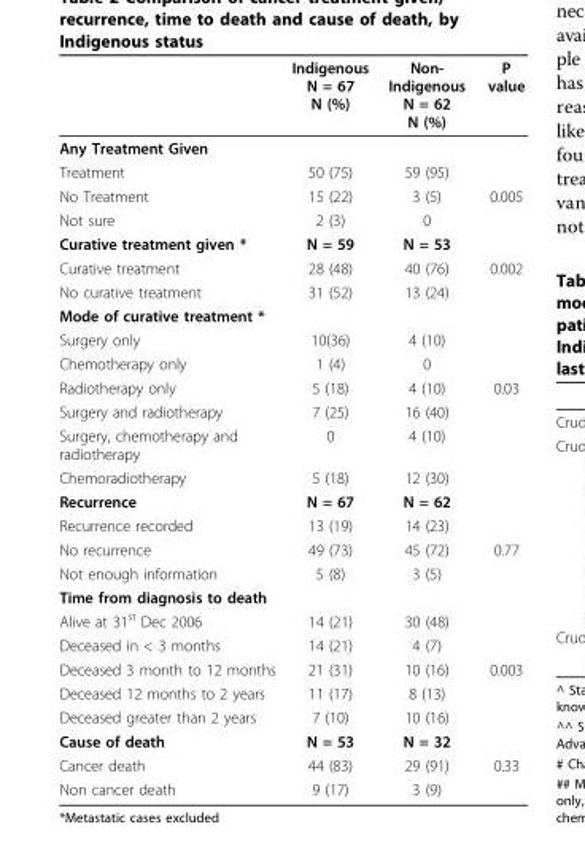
<table><thead><tr><td></td><td>Indigenous N = 67 N (%)</td><td>Non- Indigenous N = 62 N (%)</td><td>P value</td></tr></thead><tbody><tr><td colspan="4">Any Treatment Given</td></tr><tr><td>Treatment</td><td>50 (75)</td><td>59 (95)</td><td></td></tr><tr><td>No Treatment</td><td>15 (22)</td><td>3 (5)</td><td>0.005</td></tr><tr><td>Not sure</td><td>2 (3)</td><td>0</td><td></td></tr><tr><td>Curative treatment given *</td><td>N = 59</td><td>N = 53</td><td></td></tr><tr><td>Curative treatment</td><td>28 (48)</td><td>40 (76)</td><td>0.002</td></tr><tr><td>No curative treatment</td><td>31 (52)</td><td>13 (24)</td><td></td></tr><tr><td colspan="4">Mode of curative treatment *</td></tr><tr><td>Surgery only</td><td>10(36)</td><td>4 (10)</td><td></td></tr><tr><td>Chemotherapy only</td><td>1 (4)</td><td>0</td><td></td></tr><tr><td>Radiotherapy only</td><td>5 (18)</td><td>4 (10)</td><td>0.03</td></tr><tr><td>Surgery and radiotherapy</td><td>7 (25)</td><td>16 (40)</td><td></td></tr><tr><td>Surgery, chemotherapy and radiotherapy</td><td>0</td><td>4 (10)</td><td></td></tr><tr><td>Chemoradiotherapy</td><td>5 (18)</td><td>12 (30)</td><td></td></tr><tr><td>Recurrence</td><td>N = 67</td><td>N = 62</td><td></td></tr><tr><td>Recurrence recorded</td><td>13 (19)</td><td>14 (23)</td><td></td></tr><tr><td>No recurrence</td><td>49 (73)</td><td>45 (72)</td><td>0.77</td></tr><tr><td>Not enough information</td><td>5 (8)</td><td>3 (5)</td><td></td></tr><tr><td colspan="4">Time from diagnosis to death</td></tr><tr><td>Alive at 31<sup>st</sup> Dec 2006</td><td>14 (21)</td><td>30 (48)</td><td></td></tr><tr><td>Deceased in &lt; 3 months</td><td>14 (21)</td><td>4 (7)</td><td></td></tr><tr><td>Deceased 3 month to 12 months</td><td>21 (31)</td><td>10 (16)</td><td>0.003</td></tr><tr><td>Deceased 12 months to 2 years</td><td>11 (17)</td><td>8 (13)</td><td></td></tr><tr><td>Deceased greater than 2 years</td><td>7 (10)</td><td>10 (16)</td><td></td></tr><tr><td>Cause of death</td><td>N = 53</td><td>N = 32</td><td></td></tr><tr><td>Cancer death</td><td>44 (83)</td><td>29 (91)</td><td>0.33</td></tr><tr><td>Non cancer death</td><td>9 (17)</td><td>3 (9)</td><td></td></tr></tbody></table>